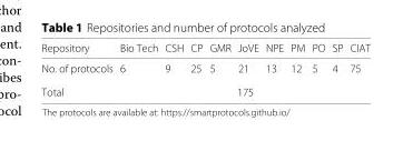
<table><thead><tr><td>Repository</td><td>Bio Tech</td><td>CSH</td><td>CP</td><td>GMR</td><td>JoVE</td><td>NPE</td><td>PM</td><td>PO</td><td>SP</td><td>CIAT</td></tr></thead><tbody><tr><td>No. of protocols</td><td>6</td><td>9</td><td>25</td><td>5</td><td>21</td><td>13</td><td>12</td><td>5</td><td>4</td><td>75</td></tr><tr><td>Total</td><td colspan="10">175</td></tr></tbody></table>